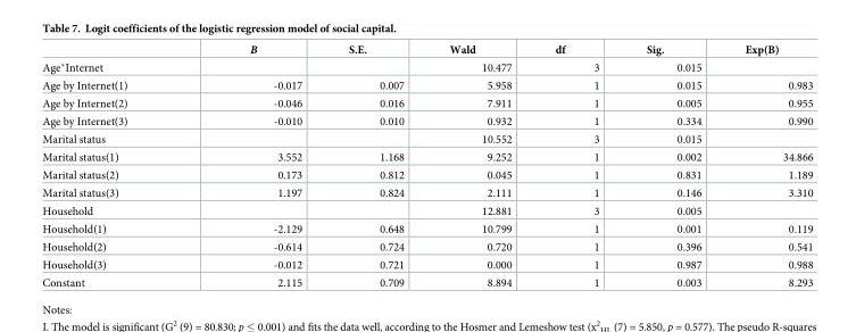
<table><thead><tr><td></td><td>B</td><td>S.E.</td><td>Wald</td><td>df</td><td>Sig.</td><td>Exp(B)</td></tr></thead><tbody><tr><td>Age*Internet</td><td></td><td></td><td>10.477</td><td>3</td><td>0.015</td><td></td></tr><tr><td>Age by Internet(1)</td><td>-0.017</td><td>0.007</td><td>5.958</td><td>1</td><td>0.015</td><td>0.983</td></tr><tr><td>Age by Internet(2)</td><td>-0.046</td><td>0.016</td><td>7.911</td><td>1</td><td>0.005</td><td>0.955</td></tr><tr><td>Age by Internet(3)</td><td>-0.010</td><td>0.010</td><td>0.932</td><td>1</td><td>0.334</td><td>0.990</td></tr><tr><td>Marital status</td><td></td><td></td><td>10.552</td><td>3</td><td>0.015</td><td></td></tr><tr><td>Marital status(1)</td><td>3.552</td><td>1.168</td><td>9.252</td><td>1</td><td>0.002</td><td>34.866</td></tr><tr><td>Marital status(2)</td><td>0.173</td><td>0.812</td><td>0.045</td><td>1</td><td>0.831</td><td>1.189</td></tr><tr><td>Marital status(3)</td><td>1.197</td><td>0.824</td><td>2.111</td><td>1</td><td>0.146</td><td>3.310</td></tr><tr><td>Household</td><td></td><td></td><td>12.881</td><td>3</td><td>0.005</td><td></td></tr><tr><td>Household(1)</td><td>-2.129</td><td>0.648</td><td>10.799</td><td>1</td><td>0.001</td><td>0.119</td></tr><tr><td>Household(2)</td><td>-0.614</td><td>0.724</td><td>0.720</td><td>1</td><td>0.396</td><td>0.541</td></tr><tr><td>Household(3)</td><td>-0.012</td><td>0.721</td><td>0.000</td><td>1</td><td>0.987</td><td>0.988</td></tr><tr><td>Constant</td><td>2.115</td><td>0.709</td><td>8.894</td><td>1</td><td>0.003</td><td>8.293</td></tr></tbody></table>